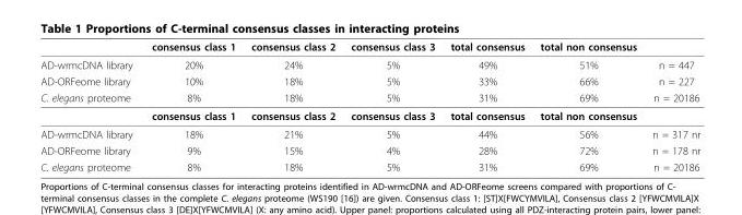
<table><thead><tr><td></td><td>consensus class 1</td><td>consensus class 2</td><td>consensus class 3</td><td>total consensus</td><td>total non consensus</td><td></td></tr></thead><tbody><tr><td>AD-wrmcDNA library</td><td>20%</td><td>24%</td><td>5%</td><td>49%</td><td>51%</td><td>n = 447</td></tr><tr><td>AD-ORFeome library</td><td>10%</td><td>18%</td><td>5%</td><td>33%</td><td>66%</td><td>n = 227</td></tr><tr><td rowspan="2">C. elegans proteome</td><td>8%</td><td>18%</td><td>5%</td><td>31%</td><td>69%</td><td>n = 20186</td></tr><tr><td>consensus class 1</td><td>consensus class 2</td><td>consensus class 3</td><td>total consensus</td><td>total non consensus</td><td></td></tr><tr><td>AD-wrmcDNA library</td><td>18%</td><td>21%</td><td>5%</td><td>44%</td><td>56%</td><td>n = 317 nr</td></tr><tr><td>AD-ORFeome library</td><td>9%</td><td>15%</td><td>4%</td><td>28%</td><td>72%</td><td>n = 178 nr</td></tr><tr><td>C. elegans proteome</td><td>8%</td><td>18%</td><td>5%</td><td>31%</td><td>69%</td><td>n = 20186</td></tr></tbody></table>